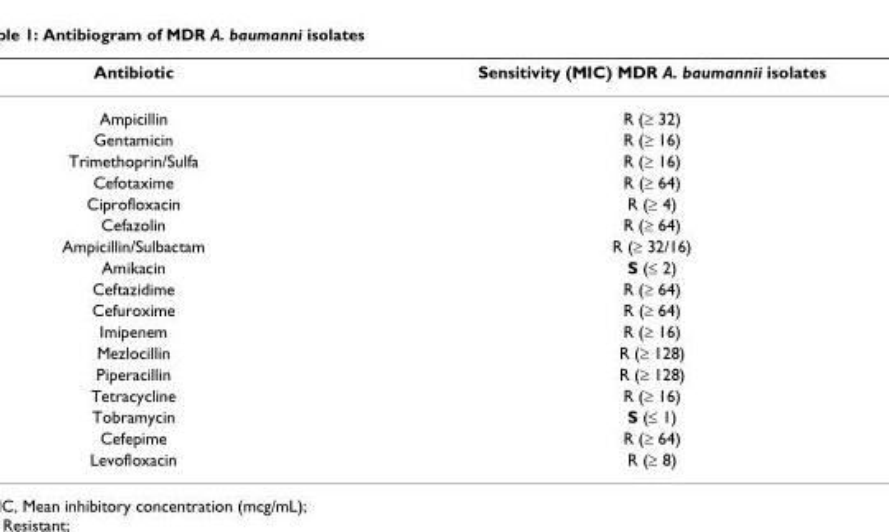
<table><thead><tr><td>Antibiotic</td><td>Sensitivity (MIC) MDR A. baumannii isolates</td></tr></thead><tbody><tr><td>Ampicillin</td><td>R (≥ 32)</td></tr><tr><td>Gentamicin</td><td>R (≥ 16)</td></tr><tr><td>Trimethoprin/Sulfa</td><td>R (≥ 16)</td></tr><tr><td>Cefotaxime</td><td>R (≥ 64)</td></tr><tr><td>Ciprofloxacin</td><td>R (≥ 4)</td></tr><tr><td>Cefazolin</td><td>R (≥ 64)</td></tr><tr><td>Ampicillin/Sulbactam</td><td>R (≥ 32/16)</td></tr><tr><td>Amikacin</td><td>S (≤ 2)</td></tr><tr><td>Ceftazidime</td><td>R (≥ 64)</td></tr><tr><td>Cefuroxime</td><td>R (≥ 64)</td></tr><tr><td>Imipenem</td><td>R (≥ 16)</td></tr><tr><td>Mezlocillin</td><td>R (≥ 128)</td></tr><tr><td>Piperacillin</td><td>R (≥ 128)</td></tr><tr><td>Tetracycline</td><td>R (≥ 16)</td></tr><tr><td>Tobramycin</td><td>S (≤ 1)</td></tr><tr><td>Cefepime</td><td>R (≥ 64)</td></tr><tr><td>Levofloxacin</td><td>R (≥ 8)</td></tr></tbody></table>